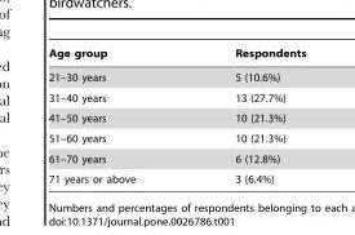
<table><thead><tr><td>Age group</td><td>Respondents</td></tr></thead><tbody><tr><td>21–30 years</td><td>5 (10.6%)</td></tr><tr><td>31–40 years</td><td>13 (27.7%)</td></tr><tr><td>41–50 years</td><td>10 (21.3%)</td></tr><tr><td>51–60 years</td><td>10 (21.3%)</td></tr><tr><td>61–70 years</td><td>6 (12.8%)</td></tr><tr><td>71 years or above</td><td>3 (6.4%)</td></tr></tbody></table>